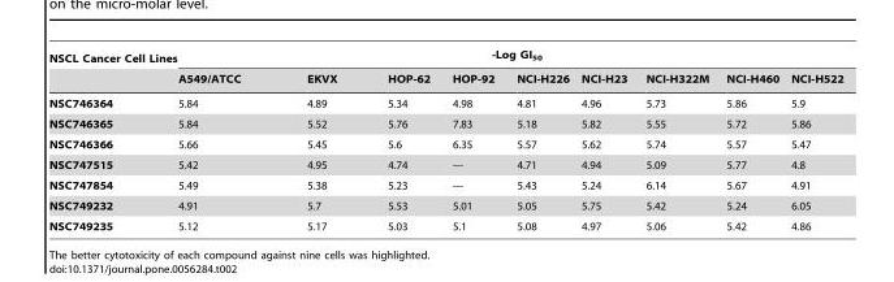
<table><thead><tr><td rowspan="2">NSCL Cancer Cell Lines</td><td colspan="9">-Log GI<sub>50</sub></td></tr><tr><td>A549/ATCC</td><td>EKVX</td><td>HOP-62</td><td>HOP-92</td><td>NCI-H226</td><td>NCI-H23</td><td>NCI-H322M</td><td>NCI-H460</td><td>NCI-H522</td></tr></thead><tbody><tr><td>NSC746364</td><td>5.84</td><td>4.89</td><td>5.34</td><td>4.98</td><td>4.81</td><td>4.96</td><td>5.73</td><td>5.86</td><td>5.9</td></tr><tr><td>NSC746365</td><td>5.84</td><td>5.52</td><td>5.76</td><td>7.83</td><td>5.18</td><td>5.82</td><td>5.55</td><td>5.72</td><td>5.86</td></tr><tr><td>NSC746366</td><td>5.66</td><td>5.45</td><td>5.6</td><td>6.35</td><td>5.57</td><td>5.62</td><td>5.74</td><td>5.57</td><td>5.47</td></tr><tr><td>NSC747515</td><td>5.42</td><td>4.95</td><td>4.74</td><td>---</td><td>4.71</td><td>4.94</td><td>5.09</td><td>5.77</td><td>4.8</td></tr><tr><td>NSC747854</td><td>5.49</td><td>5.38</td><td>5.23</td><td>---</td><td>5.43</td><td>5.24</td><td>6.14</td><td>5.67</td><td>4.91</td></tr><tr><td>NSC749232</td><td>4.91</td><td>5.7</td><td>5.53</td><td>5.01</td><td>5.05</td><td>5.75</td><td>5.42</td><td>5.24</td><td>6.05</td></tr><tr><td>NSC749235</td><td>5.12</td><td>5.17</td><td>5.03</td><td>5.1</td><td>5.08</td><td>4.97</td><td>5.06</td><td>5.42</td><td>4.86</td></tr></tbody></table>